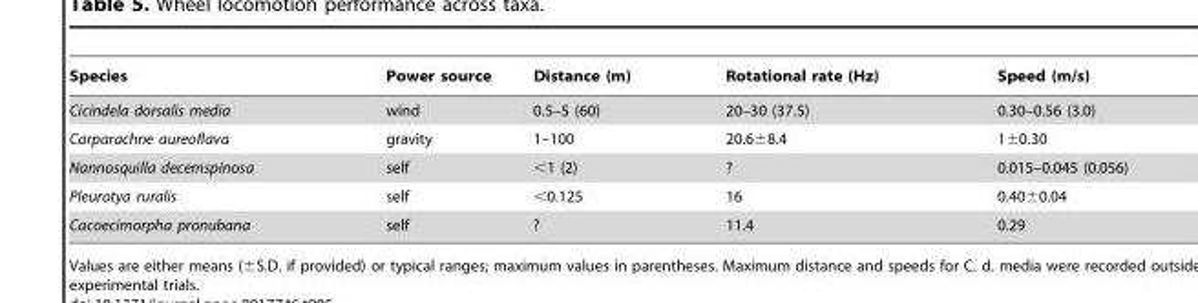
<table><thead><tr><td>Species</td><td>Power source</td><td>Distance (m)</td><td>Rotational rate (Hz)</td><td>Speed (m/s)</td></tr></thead><tbody><tr><td>Cicindela dorsalis media</td><td>wind</td><td>0.5–5 (60)</td><td>20–30 (37.5)</td><td>0.30–0.56 (3.0)</td></tr><tr><td>Carparachne aureoflava</td><td>gravity</td><td>1–100</td><td>20.6±8.4</td><td>1±0.30</td></tr><tr><td>Nannosquilla decemspinosa</td><td>self</td><td>&lt;1 (2)</td><td>?</td><td>0.015–0.045 (0.056)</td></tr><tr><td>Pleurotya ruralis</td><td>self</td><td>&lt;0.125</td><td>16</td><td>0.40±0.04</td></tr><tr><td>Cacoecimorpha pronubana</td><td>self</td><td>?</td><td>11.4</td><td>0.29</td></tr></tbody></table>